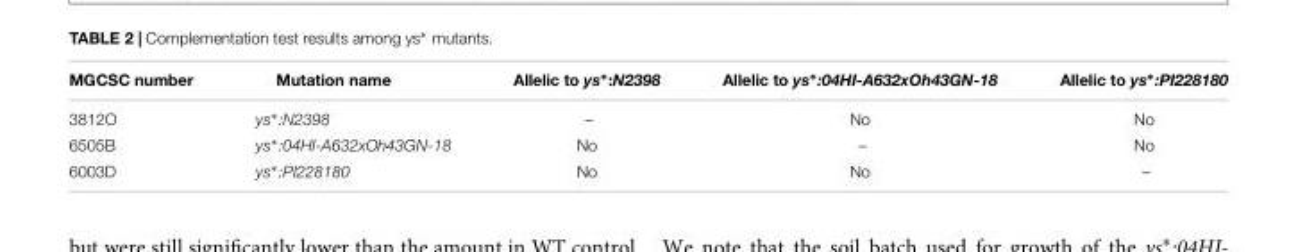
<table><thead><tr><td>MGCSC number</td><td>Mutation name</td><td>Allelic to ys∗:N2398</td><td>Allelic to ys∗:04HI-A632xOh43GN-18</td><td>Allelic to ys∗:PI228180</td></tr></thead><tbody><tr><td>3812O</td><td>ys∗:N2398</td><td>–</td><td>No</td><td>No</td></tr><tr><td>6505B</td><td>ys∗:04HI-A632xOh43GN-18</td><td>No</td><td>–</td><td>No</td></tr><tr><td>6003D</td><td>ys∗:PI228180</td><td>No</td><td>No</td><td>–</td></tr></tbody></table>